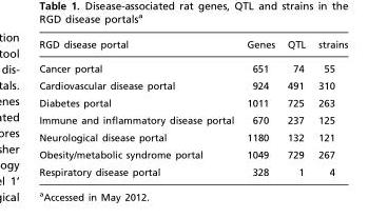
<table><thead><tr><td>RGD disease portal</td><td>Genes</td><td>QTL</td><td>strains</td></tr></thead><tbody><tr><td>Cancer portal</td><td>651</td><td>74</td><td>55</td></tr><tr><td>Cardiovascular disease portal</td><td>924</td><td>491</td><td>310</td></tr><tr><td>Diabetes portal</td><td>1011</td><td>725</td><td>263</td></tr><tr><td>Immune and inflammatory disease portal</td><td>670</td><td>237</td><td>125</td></tr><tr><td>Neurological disease portal</td><td>1180</td><td>132</td><td>121</td></tr><tr><td>Obesity/metabolic syndrome portal</td><td>1049</td><td>729</td><td>267</td></tr><tr><td>Respiratory disease portal</td><td>328</td><td>1</td><td>4</td></tr></tbody></table>